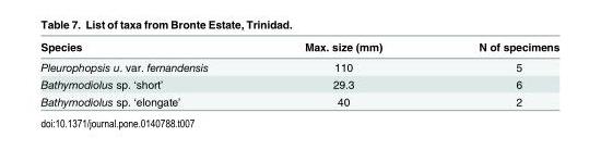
<table><thead><tr><td>Species</td><td>Max. size (mm)</td><td>N of specimens</td></tr></thead><tbody><tr><td>Pleurophopsis u. var. fernandensis</td><td>110</td><td>5</td></tr><tr><td>Bathymodiolus sp. ‘short’</td><td>29.3</td><td>6</td></tr><tr><td>Bathymodiolus sp. ‘elongate’</td><td>40</td><td>2</td></tr></tbody></table>